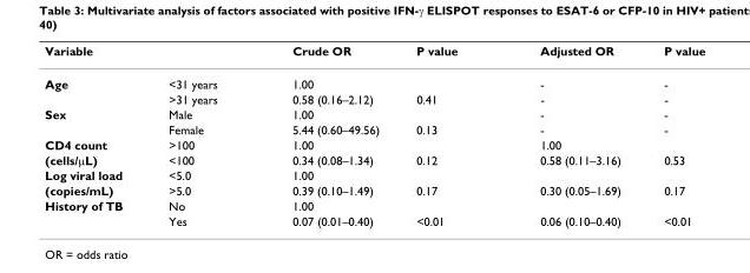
<table><thead><tr><td>Variable</td><td></td><td>Crude OR</td><td>P value</td><td>Adjusted OR</td><td>P value</td></tr></thead><tbody><tr><td rowspan="2">Age</td><td>&lt;31 years</td><td>1.00</td><td></td><td>-</td><td>-</td></tr><tr><td>&gt;31 years</td><td>0.58 (0.16–2.12)</td><td>0.41</td><td>-</td><td>-</td></tr><tr><td rowspan="2">Sex</td><td>Male</td><td>1.00</td><td></td><td>-</td><td>-</td></tr><tr><td>Female</td><td>5.44 (0.60–49.56)</td><td>0.13</td><td>-</td><td>-</td></tr><tr><td>CD4 count</td><td>&gt;100</td><td>1.00</td><td></td><td>1.00</td><td></td></tr><tr><td>(cells/µL)</td><td>&lt;100</td><td>0.34 (0.08–1.34)</td><td>0.12</td><td>0.58 (0.11–3.16)</td><td>0.53</td></tr><tr><td>Log viral load</td><td>&lt;5.0</td><td>1.00</td><td></td><td></td><td></td></tr><tr><td>(copies/mL)</td><td>&gt;5.0</td><td>0.39 (0.10–1.49)</td><td>0.17</td><td>0.30 (0.05–1.69)</td><td>0.17</td></tr><tr><td rowspan="2">History of TB</td><td>No</td><td>1.00</td><td></td><td></td><td></td></tr><tr><td>Yes</td><td>0.07 (0.01–0.40)</td><td>&lt;0.01</td><td>0.06 (0.10–0.40)</td><td>&lt;0.01</td></tr></tbody></table>